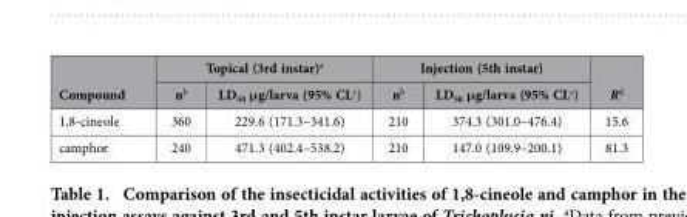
<table><thead><tr><td rowspan="2">Compound</td><td colspan="2">Topical (3rd instar)<sup>a</sup></td><td colspan="2">Injection (5th instar)</td><td rowspan="2">R<sup>d</sup></td></tr><tr><td>n<sup>b</sup></td><td>LD<sub>50</sub> μg/larva (95% CL<sup>c</sup>)</td><td>n<sup>b</sup></td><td>LD<sub>50</sub> μg/larva (95% CL<sup>c</sup>)</td></tr></thead><tbody><tr><td>1,8-cineole</td><td>360</td><td>229.6 (171.3–341.6)</td><td>210</td><td>374.3 (301.0–476.4)</td><td>15.6</td></tr><tr><td>camphor</td><td>240</td><td>471.3 (402.4–538.2)</td><td>210</td><td>147.0 (109.9–200.1)</td><td>81.3</td></tr></tbody></table>